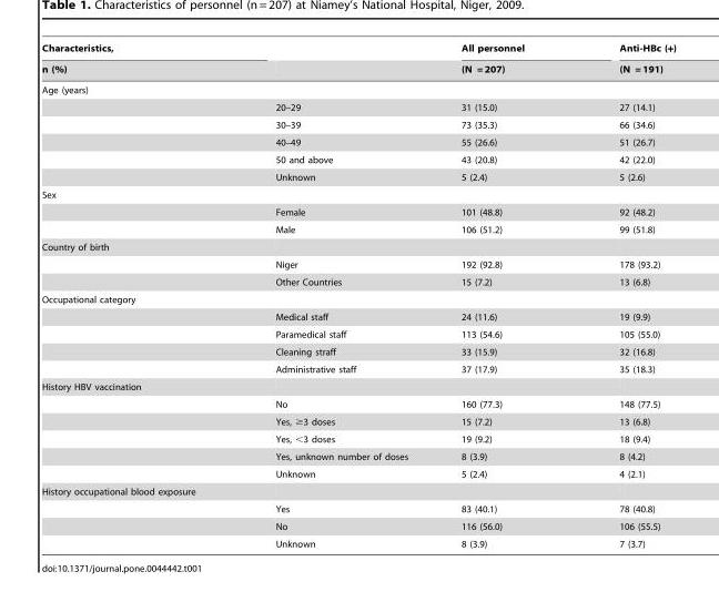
<table><thead><tr><td rowspan="2">Characteristics, n (%)</td><td rowspan="2"></td><td rowspan="2">All personnel (N = 207)</td><td rowspan="2">Anti-HBc (+) (N = 191)</td></tr><tr></tr></thead><tbody><tr><td colspan="4">Age (years)</td></tr><tr><td></td><td>20–29</td><td>31 (15.0)</td><td>27 (14.1)</td></tr><tr><td></td><td>30–39</td><td>73 (35.3)</td><td>66 (34.6)</td></tr><tr><td></td><td>40–49</td><td>55 (26.6)</td><td>51 (26.7)</td></tr><tr><td></td><td>50 and above</td><td>43 (20.8)</td><td>42 (22.0)</td></tr><tr><td></td><td>Unknown</td><td>5 (2.4)</td><td>5 (2.6)</td></tr><tr><td colspan="4">Sex</td></tr><tr><td></td><td>Female</td><td>101 (48.8)</td><td>92 (48.2)</td></tr><tr><td></td><td>Male</td><td>106 (51.2)</td><td>99 (51.8)</td></tr><tr><td colspan="4">Country of birth</td></tr><tr><td></td><td>Niger</td><td>192 (92.8)</td><td>178 (93.2)</td></tr><tr><td></td><td>Other Countries</td><td>15 (7.2)</td><td>13 (6.8)</td></tr><tr><td colspan="4">Occupational category</td></tr><tr><td></td><td>Medical staff</td><td>24 (11.6)</td><td>19 (9.9)</td></tr><tr><td></td><td>Paramedical staff</td><td>113 (54.6)</td><td>105 (55.0)</td></tr><tr><td></td><td>Cleaning straff</td><td>33 (15.9)</td><td>32 (16.8)</td></tr><tr><td></td><td>Administrative staff</td><td>37 (17.9)</td><td>35 (18.3)</td></tr><tr><td colspan="4">History HBV vaccination</td></tr><tr><td></td><td>No</td><td>160 (77.3)</td><td>148 (77.5)</td></tr><tr><td></td><td>Yes, ≥3 doses</td><td>15 (7.2)</td><td>13 (6.8)</td></tr><tr><td></td><td>Yes, &lt;3 doses</td><td>19 (9.2)</td><td>18 (9.4)</td></tr><tr><td></td><td>Yes, unknown number of doses</td><td>8 (3.9)</td><td>8 (4.2)</td></tr><tr><td></td><td>Unknown</td><td>5 (2.4)</td><td>4 (2.1)</td></tr><tr><td colspan="4">History occupational blood exposure</td></tr><tr><td></td><td>Yes</td><td>83 (40.1)</td><td>78 (40.8)</td></tr><tr><td></td><td>No</td><td>116 (56.0)</td><td>106 (55.5)</td></tr><tr><td></td><td>Unknown</td><td>8 (3.9)</td><td>7 (3.7)</td></tr></tbody></table>